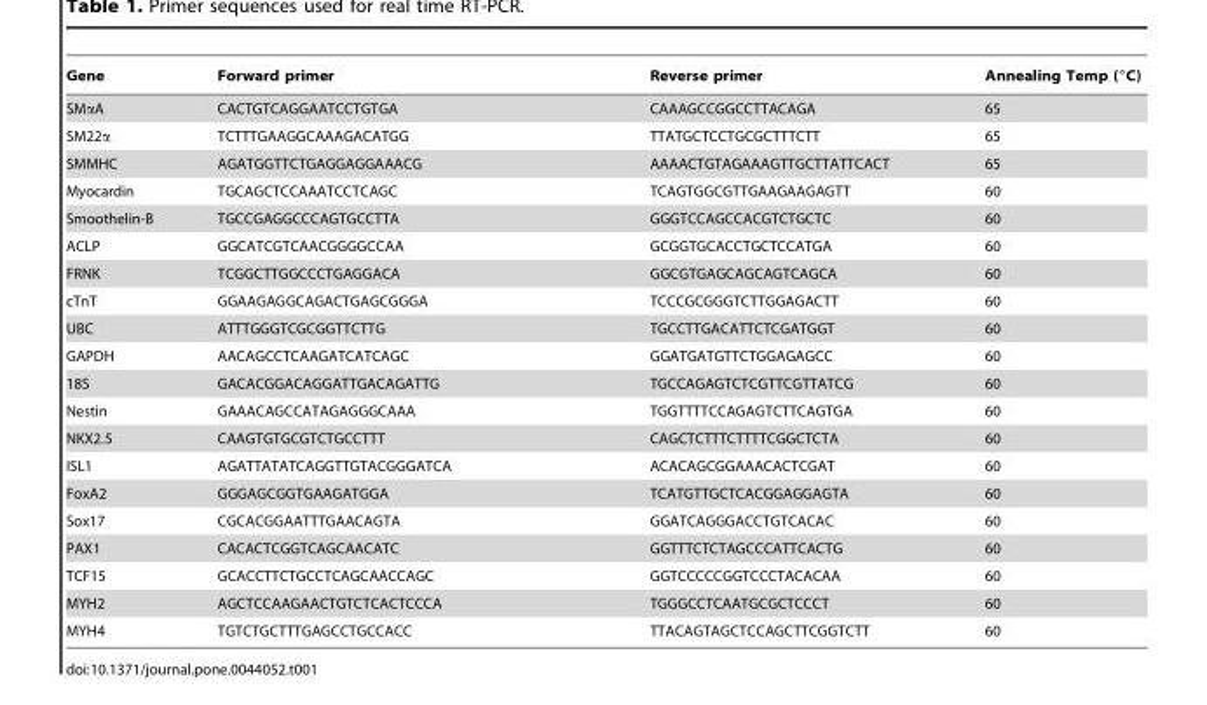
<table><thead><tr><td>Gene</td><td>Forward primer</td><td>Reverse primer</td><td>Annealing Temp (°C)</td></tr></thead><tbody><tr><td>SMαA</td><td>CACTGTCAGGAATCCTGTGA</td><td>CAAAGCCGGCCTTACAGA</td><td>65</td></tr><tr><td>SM22α</td><td>TCTTTGAAGGCAAAGACATGG</td><td>TTATGCTCCTGCGCTTTCTT</td><td>65</td></tr><tr><td>SMMHC</td><td>AGATGGTTCTGAGGAGGAAACG</td><td>AAAACTGTAGAAAGTTGCTTATTCACT</td><td>65</td></tr><tr><td>Myocardin</td><td>TGCAGCTCCAAATCCTCAGC</td><td>TCAGTGGCGTTGAAGAAGAGTT</td><td>60</td></tr><tr><td>Smoothelin-B</td><td>TGCCGAGGCCCAGTGCCTTA</td><td>GGGTCCAGCCACGTCTGCTC</td><td>60</td></tr><tr><td>ACLP</td><td>GGCATCGTCAACGGGGCCAA</td><td>GCGGTGCACCTGCTCCATGA</td><td>60</td></tr><tr><td>FRNK</td><td>TCGGCTTGGCCCTGAGGACA</td><td>GGCGTGAGCAGCAGTCAGCA</td><td>60</td></tr><tr><td>cTnT</td><td>GGAAGAGGCAGACTGAGCGGGA</td><td>TCCCGCGGGTCTTGGAGACTT</td><td>60</td></tr><tr><td>UBC</td><td>ATTTGGGTCGCGGTTCTTG</td><td>TGCCTTGACATTCTCGATGGT</td><td>60</td></tr><tr><td>GAPDH</td><td>AACAGCCTCAAGATCATCAGC</td><td>GGATGATGTTCTGGAGAGCC</td><td>60</td></tr><tr><td>18S</td><td>GACACGGACAGGATTGACAGATTG</td><td>TGCCAGAGTCTCGTTCGTTATCG</td><td>60</td></tr><tr><td>Nestin</td><td>GAAACAGCCATAGAGGGCAAA</td><td>TGGTTTTCCAGAGTCTTCAGTGA</td><td>60</td></tr><tr><td>NKX2.5</td><td>CAAGTGTGCGTCTGCCTTT</td><td>CAGCTCTTTCTTTTCGGCTCTA</td><td>60</td></tr><tr><td>ISL1</td><td>AGATTATATCAGGTTGTACGGGATCA</td><td>ACACAGCGGAAACACTCGAT</td><td>60</td></tr><tr><td>FoxA2</td><td>GGGAGCGGTGAAGATGGA</td><td>TCATGTTGCTCACGGAGGAGTA</td><td>60</td></tr><tr><td>Sox17</td><td>CGCACGGAATTTGAACAGTA</td><td>GGATCAGGGACCTGTCACAC</td><td>60</td></tr><tr><td>PAX1</td><td>CACACTCGGTCAGCAACATC</td><td>GGTTTCTCTAGCCCATTCACTG</td><td>60</td></tr><tr><td>TCF15</td><td>GCACCTTCTGCCTCAGCAACCAGC</td><td>GGTCCCCCGGTCCCTACACAA</td><td>60</td></tr><tr><td>MYH2</td><td>AGCTCCAAGAACTGTCTCACTCCCA</td><td>TGGGCCTCAATGCGCTCCCT</td><td>60</td></tr><tr><td>MYH4</td><td>TGTCTGCTTTGAGCCTGCCACC</td><td>TTACAGTAGCTCCAGCTTCGGTCTT</td><td>60</td></tr></tbody></table>